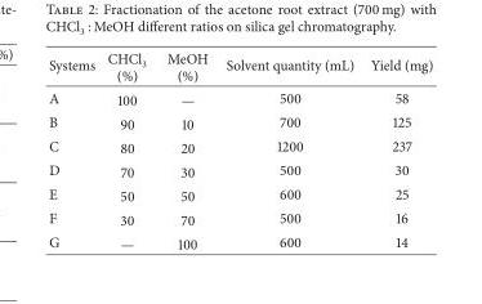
<table><thead><tr><td>Systems</td><td>CHCl<sub>3</sub> (%)</td><td>MeOH (%)</td><td>Solvent quantity (mL)</td><td>Yield (mg)</td></tr></thead><tbody><tr><td>A</td><td>100</td><td>—</td><td>500</td><td>58</td></tr><tr><td>B</td><td>90</td><td>10</td><td>700</td><td>125</td></tr><tr><td>C</td><td>80</td><td>20</td><td>1200</td><td>237</td></tr><tr><td>D</td><td>70</td><td>30</td><td>500</td><td>30</td></tr><tr><td>E</td><td>50</td><td>50</td><td>600</td><td>25</td></tr><tr><td>F</td><td>30</td><td>70</td><td>500</td><td>16</td></tr><tr><td>G</td><td>—</td><td>100</td><td>600</td><td>14</td></tr></tbody></table>